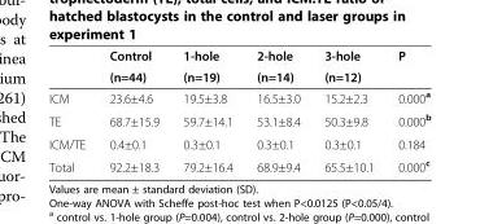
<table><thead><tr><td rowspan="2"></td><td rowspan="2">Control (n=44)</td><td rowspan="2">1-hole (n=19)</td><td rowspan="2">2-hole (n=14)</td><td rowspan="2">3-hole (n=12)</td><td rowspan="2">P</td></tr><tr></tr></thead><tbody><tr><td>ICM</td><td>23.6±4.6</td><td>19.5±3.8</td><td>16.5±3.0</td><td>15.2±2.3</td><td>0.000<sup>a</sup></td></tr><tr><td>TE</td><td>68.7±15.9</td><td>59.7±14.1</td><td>53.1±8.4</td><td>50.3±9.8</td><td>0.000<sup>b</sup></td></tr><tr><td>ICM/TE</td><td>0.4±0.1</td><td>0.3±0.1</td><td>0.3±0.1</td><td>0.3±0.1</td><td>0.184</td></tr><tr><td>Total</td><td>92.2±18.3</td><td>79.2±16.4</td><td>68.9±9.4</td><td>65.5±10.1</td><td>0.000<sup>c</sup></td></tr></tbody></table>